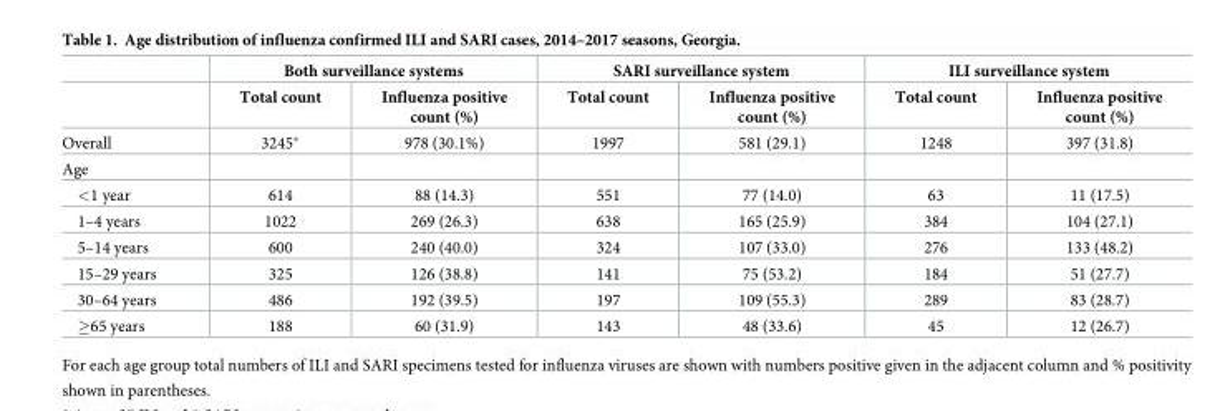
<table><thead><tr><td rowspan="2"></td><td colspan="2">Both surveillance systems</td><td colspan="2">SARI surveillance system</td><td colspan="2">ILI surveillance system</td></tr><tr><td>Total count</td><td>Influenza positive count (%)</td><td>Total count</td><td>Influenza positive count (%)</td><td>Total count</td><td>Influenza positive count (%)</td></tr></thead><tbody><tr><td>Overall</td><td>3245*</td><td>978 (30.1%)</td><td>1997</td><td>581 (29.1)</td><td>1248</td><td>397 (31.8)</td></tr><tr><td colspan="7">Age</td></tr><tr><td>&lt;1 year</td><td>614</td><td>88 (14.3)</td><td>551</td><td>77 (14.0)</td><td>63</td><td>11 (17.5)</td></tr><tr><td>1–4 years</td><td>1022</td><td>269 (26.3)</td><td>638</td><td>165 (25.9)</td><td>384</td><td>104 (27.1)</td></tr><tr><td>5–14 years</td><td>600</td><td>240 (40.0)</td><td>324</td><td>107 (33.0)</td><td>276</td><td>133 (48.2)</td></tr><tr><td>15–29 years</td><td>325</td><td>126 (38.8)</td><td>141</td><td>75 (53.2)</td><td>184</td><td>51 (27.7)</td></tr><tr><td>30–64 years</td><td>486</td><td>192 (39.5)</td><td>197</td><td>109 (55.3)</td><td>289</td><td>83 (28.7)</td></tr><tr><td>≥65 years</td><td>188</td><td>60 (31.9)</td><td>143</td><td>48 (33.6)</td><td>45</td><td>12 (26.7)</td></tr></tbody></table>